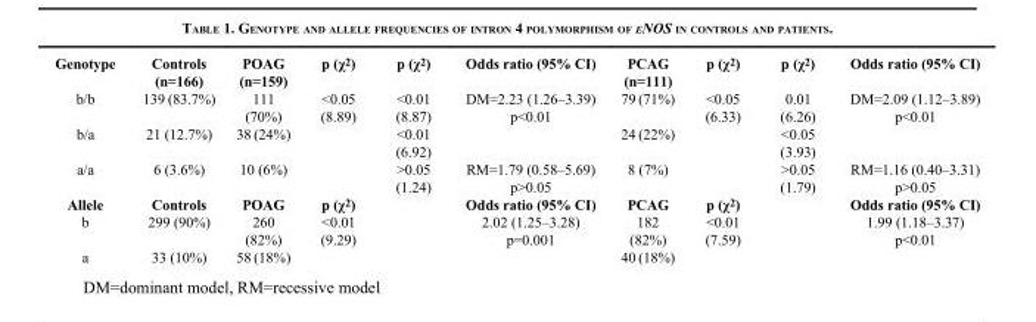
<table><thead><tr><td>Genotype</td><td>Controls (n=166)</td><td>POAG (n=159)</td><td>p (χ<sup>2</sup>)</td><td>p (χ<sup>2</sup>)</td><td>Odds ratio (95% CI)</td><td>PCAG (n=111)</td><td>p (χ<sup>2</sup>)</td><td>p (χ<sup>2</sup>)</td><td>Odds ratio (95% CI)</td></tr></thead><tbody><tr><td>b/b</td><td>139 (83.7%)</td><td>111 (70%)</td><td rowspan="3">&lt;0.05 (8.89)</td><td>&lt;0.01 (8.87)</td><td>DM=2.23 (1.26–3.39) p&lt;0.01</td><td>79 (71%)</td><td rowspan="3">&lt;0.05 (6.33)</td><td>0.01 (6.26)</td><td>DM=2.09 (1.12–3.89) p&lt;0.01</td></tr><tr><td>b/a</td><td>21 (12.7%)</td><td>38 (24%)</td><td>&lt;0.01 (6.92)</td><td></td><td>24 (22%)</td><td>&lt;0.05 (3.93)</td><td></td></tr><tr><td>a/a</td><td>6 (3.6%)</td><td>10 (6%)</td><td>&gt;0.05 (1.24)</td><td>RM=1.79 (0.58–5.69) p&gt;0.05</td><td>8 (7%)</td><td>&gt;0.05 (1.79)</td><td>RM=1.16 (0.40–3.31) p&gt;0.05</td></tr><tr><td>Allele</td><td>Controls</td><td>POAG</td><td>p (χ<sup>2</sup>)</td><td></td><td>Odds ratio (95% CI)</td><td>PCAG</td><td>p (χ<sup>2</sup>)</td><td></td><td>Odds ratio (95% CI)</td></tr><tr><td>b</td><td>299 (90%)</td><td>260 (82%)</td><td rowspan="2">&lt;0.01 (9.29)</td><td></td><td>2.02 (1.25–3.28) p=0.001</td><td>182 (82%)</td><td rowspan="2">&lt;0.01 (7.59)</td><td></td><td rowspan="2">1.99 (1.18–3.37) p&lt;0.01</td></tr><tr><td>a</td><td>33 (10%)</td><td>58 (18%)</td><td></td><td></td><td>40 (18%)</td><td></td></tr></tbody></table>